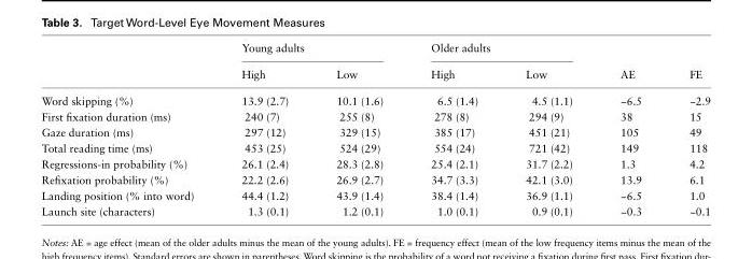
<table><thead><tr><td rowspan="2"></td><td colspan="2">Young adults</td><td colspan="2">Older adults</td><td rowspan="2">AE</td><td rowspan="2">FE</td></tr><tr><td>High</td><td>Low</td><td>High</td><td>Low</td></tr></thead><tbody><tr><td>Word skipping (%)</td><td>13.9 (2.7)</td><td>10.1 (1.6)</td><td>6.5 (1.4)</td><td>4.5 (1.1)</td><td>−6.5</td><td>−2.9</td></tr><tr><td>First fixation duration (ms)</td><td>240 (7)</td><td>255 (8)</td><td>278 (8)</td><td>294 (9)</td><td>38</td><td>15</td></tr><tr><td>Gaze duration (ms)</td><td>297 (12)</td><td>329 (15)</td><td>385 (17)</td><td>451 (21)</td><td>105</td><td>49</td></tr><tr><td>Total reading time (ms)</td><td>453 (25)</td><td>524 (29)</td><td>554 (24)</td><td>721 (42)</td><td>149</td><td>118</td></tr><tr><td>Regressions-in probability (%)</td><td>26.1 (2.4)</td><td>28.3 (2.8)</td><td>25.4 (2.1)</td><td>31.7 (2.2)</td><td>1.3</td><td>4.2</td></tr><tr><td>Refixation probability (%)</td><td>22.2 (2.6)</td><td>26.9 (2.7)</td><td>34.7 (3.3)</td><td>42.1 (3.0)</td><td>13.9</td><td>6.1</td></tr><tr><td>Landing position (% into word)</td><td>44.4 (1.2)</td><td>43.9 (1.4)</td><td>38.4 (1.4)</td><td>36.9 (1.1)</td><td>−6.5</td><td>1.0</td></tr><tr><td>Launch site (characters)</td><td>1.3 (0.1)</td><td>1.2 (0.1)</td><td>1.0 (0.1)</td><td>0.9 (0.1)</td><td>−0.3</td><td>−0.1</td></tr></tbody></table>